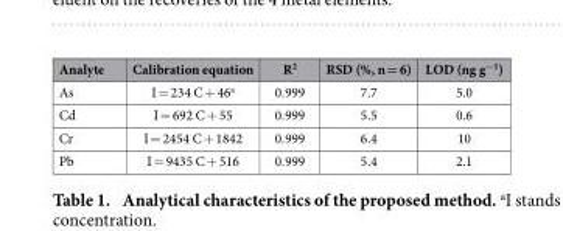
<table><thead><tr><td>Analyte</td><td>Calibration equation</td><td>R<sup>2</sup></td><td>RSD (%, n = 6)</td><td>LOD (ng g<sup>−1</sup>)</td></tr></thead><tbody><tr><td>As</td><td>I = 234 C + 46<sup>a</sup></td><td>0.999</td><td>7.7</td><td>5.0</td></tr><tr><td>Cd</td><td>I = 692 C + 55</td><td>0.999</td><td>5.5</td><td>0.6</td></tr><tr><td>Cr</td><td>I = 2454 C + 1842</td><td>0.999</td><td>6.4</td><td>10</td></tr><tr><td>Pb</td><td>I = 9435 C + 516</td><td>0.999</td><td>5.4</td><td>2.1</td></tr></tbody></table>